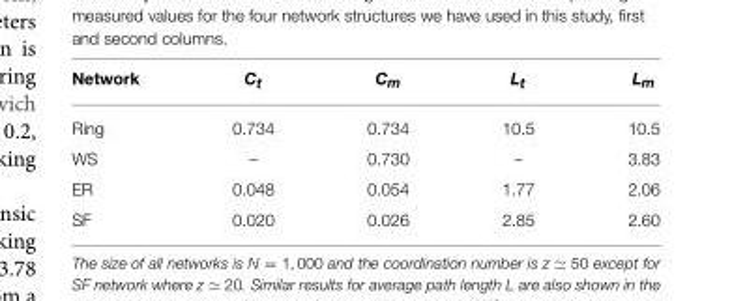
<table><thead><tr><td>Network</td><td>C<sub>t</sub></td><td>C<sub>m</sub></td><td>L<sub>t</sub></td><td>L<sub>m</sub></td></tr></thead><tbody><tr><td>Ring</td><td>0.734</td><td>0.734</td><td>10.5</td><td>10.5</td></tr><tr><td>WS</td><td>–</td><td>0.730</td><td>–</td><td>3.83</td></tr><tr><td>ER</td><td>0.048</td><td>0.054</td><td>1.77</td><td>2.06</td></tr><tr><td>SF</td><td>0.020</td><td>0.026</td><td>2.85</td><td>2.60</td></tr></tbody></table>